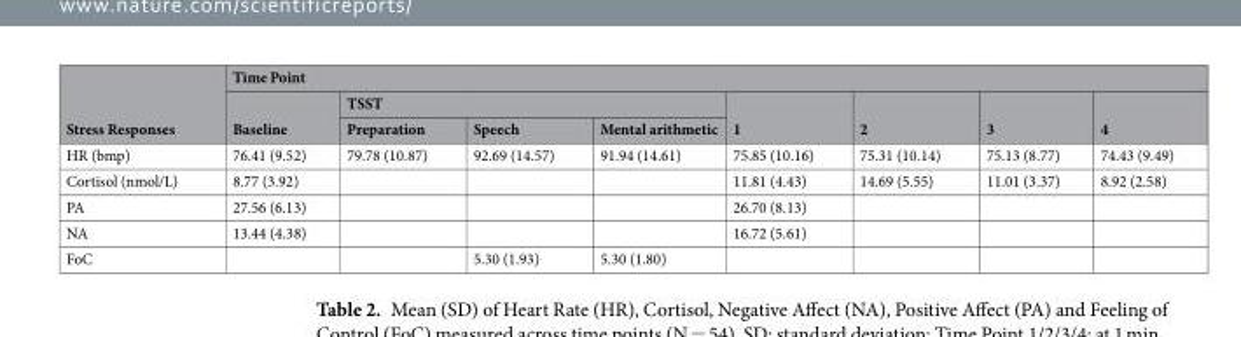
<table><thead><tr><td rowspan="3">Stress Responses</td><td colspan="8">Time Point</td></tr><tr><td rowspan="2">Baseline</td><td colspan="3">TSST</td><td rowspan="2">1</td><td rowspan="2">2</td><td rowspan="2">3</td><td rowspan="2">4</td></tr><tr><td>Preparation</td><td>Speech</td><td>Mental arithmetic</td></tr></thead><tbody><tr><td>HR (bmp)</td><td>76.41 (9.52)</td><td>79.78 (10.87)</td><td>92.69 (14.57)</td><td>91.94 (14.61)</td><td>75.85 (10.16)</td><td>75.31 (10.14)</td><td>75.13 (8.77)</td><td>74.43 (9.49)</td></tr><tr><td>Cortisol (nmol/L)</td><td>8.77 (3.92)</td><td></td><td></td><td></td><td>11.81 (4.43)</td><td>14.69 (5.55)</td><td>11.01 (3.37)</td><td>8.92 (2.58)</td></tr><tr><td>PA</td><td>27.56 (6.13)</td><td></td><td></td><td></td><td>26.70 (8.13)</td><td></td><td></td><td></td></tr><tr><td>NA</td><td>13.44 (4.38)</td><td></td><td></td><td></td><td>16.72 (5.61)</td><td></td><td></td><td></td></tr><tr><td>FoC</td><td></td><td></td><td>5.30 (1.93)</td><td>5.30 (1.80)</td><td></td><td></td><td></td><td></td></tr></tbody></table>